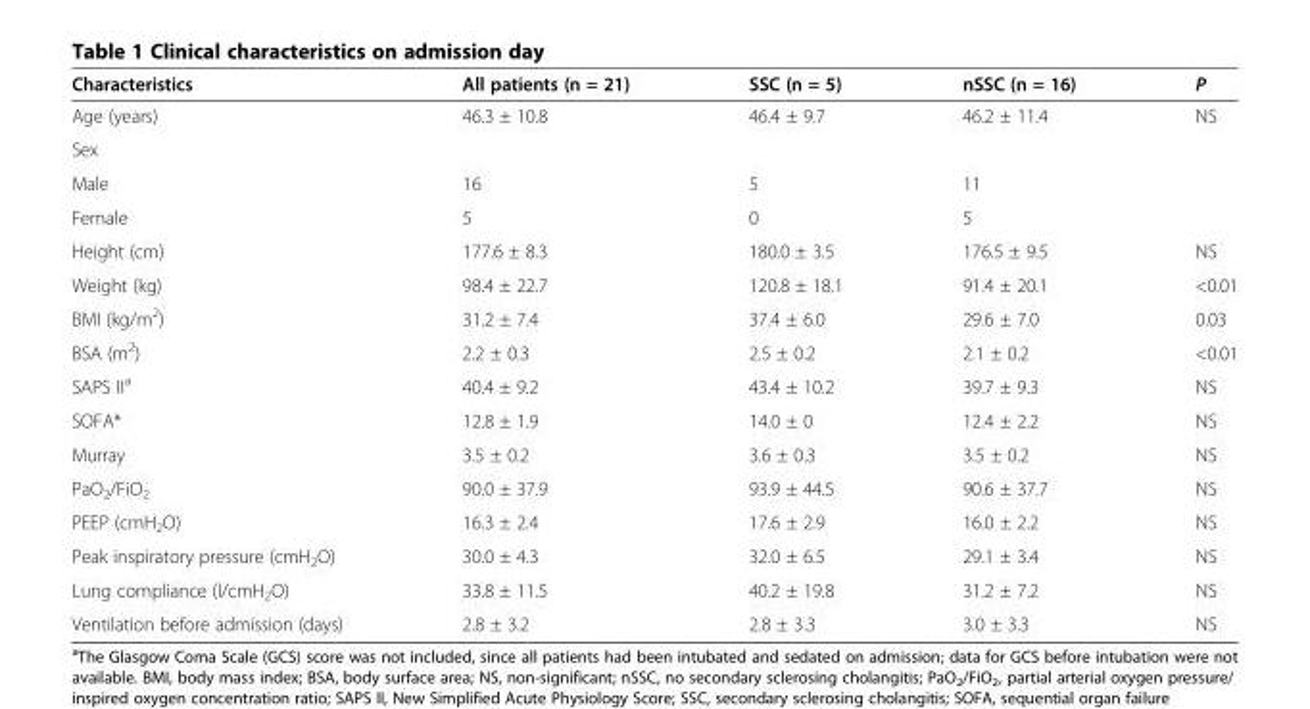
<table><thead><tr><td>Characteristics</td><td>All patients (n = 21)</td><td>SSC (n = 5)</td><td>nSSC (n = 16)</td><td>P</td></tr></thead><tbody><tr><td>Age (years)</td><td>46.3 ± 10.8</td><td>46.4 ± 9.7</td><td>46.2 ± 11.4</td><td>NS</td></tr><tr><td colspan="5">Sex</td></tr><tr><td>Male</td><td>16</td><td>5</td><td>11</td><td></td></tr><tr><td>Female</td><td>5</td><td>0</td><td>5</td><td></td></tr><tr><td>Height (cm)</td><td>177.6 ± 8.3</td><td>180.0 ± 3.5</td><td>176.5 ± 9.5</td><td>NS</td></tr><tr><td>Weight (kg)</td><td>98.4 ± 22.7</td><td>120.8 ± 18.1</td><td>91.4 ± 20.1</td><td>&lt;0.01</td></tr><tr><td>BMI (kg/m<sup>2</sup>)</td><td>31.2 ± 7.4</td><td>37.4 ± 6.0</td><td>29.6 ± 7.0</td><td>0.03</td></tr><tr><td>BSA (m<sup>2</sup>)</td><td>2.2 ± 0.3</td><td>2.5 ± 0.2</td><td>2.1 ± 0.2</td><td>&lt;0.01</td></tr><tr><td>SAPS II<sup>a</sup></td><td>40.4 ± 9.2</td><td>43.4 ± 10.2</td><td>39.7 ± 9.3</td><td>NS</td></tr><tr><td>SOFA*</td><td>12.8 ± 1.9</td><td>14.0 ± 0</td><td>12.4 ± 2.2</td><td>NS</td></tr><tr><td>Murray</td><td>3.5 ± 0.2</td><td>3.6 ± 0.3</td><td>3.5 ± 0.2</td><td>NS</td></tr><tr><td>PaO<sub>2</sub>/FiO<sub>2</sub></td><td>90.0 ± 37.9</td><td>93.9 ± 44.5</td><td>90.6 ± 37.7</td><td>NS</td></tr><tr><td>PEEP (cmH<sub>2</sub>O)</td><td>16.3 ± 2.4</td><td>17.6 ± 2.9</td><td>16.0 ± 2.2</td><td>NS</td></tr><tr><td>Peak inspiratory pressure (cmH<sub>2</sub>O)</td><td>30.0 ± 4.3</td><td>32.0 ± 6.5</td><td>29.1 ± 3.4</td><td>NS</td></tr><tr><td>Lung compliance (l/cmH<sub>2</sub>O)</td><td>33.8 ± 11.5</td><td>40.2 ± 19.8</td><td>31.2 ± 7.2</td><td>NS</td></tr><tr><td>Ventilation before admission (days)</td><td>2.8 ± 3.2</td><td>2.8 ± 3.3</td><td>3.0 ± 3.3</td><td>NS</td></tr></tbody></table>